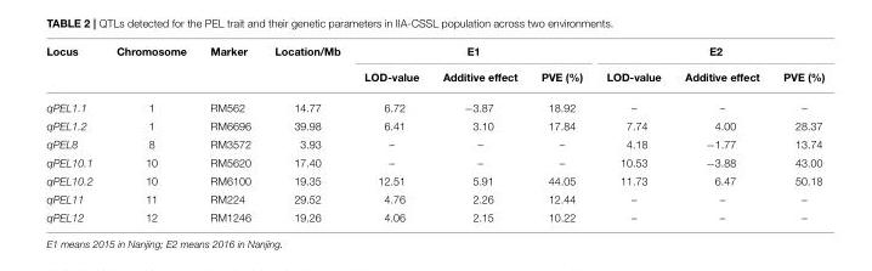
<table><thead><tr><td rowspan="2">Locus</td><td rowspan="2">Chromosome</td><td rowspan="2">Marker</td><td rowspan="2">Location/Mb</td><td colspan="3">E1</td><td colspan="3">E2</td></tr><tr><td>LOD-value</td><td>Additive effect</td><td>PVE (%)</td><td>LOD-value</td><td>Additive effect</td><td>PVE (%)</td></tr></thead><tbody><tr><td>qPEL1.1</td><td>1</td><td>RM562</td><td>14.77</td><td>6.72</td><td>−3.87</td><td>18.92</td><td>–</td><td>–</td><td>–</td></tr><tr><td>qPEL1.2</td><td>1</td><td>RM6696</td><td>39.98</td><td>6.41</td><td>3.10</td><td>17.84</td><td>7.74</td><td>4.00</td><td>28.37</td></tr><tr><td>qPEL8</td><td>8</td><td>RM3572</td><td>3.93</td><td>–</td><td>–</td><td>–</td><td>4.18</td><td>−1.77</td><td>13.74</td></tr><tr><td>qPEL10.1</td><td>10</td><td>RM5620</td><td>17.40</td><td>–</td><td>–</td><td>–</td><td>10.53</td><td>−3.88</td><td>43.00</td></tr><tr><td>qPEL10.2</td><td>10</td><td>RM6100</td><td>19.35</td><td>12.51</td><td>5.91</td><td>44.05</td><td>11.73</td><td>6.47</td><td>50.18</td></tr><tr><td>qPEL11</td><td>11</td><td>RM224</td><td>29.52</td><td>4.76</td><td>2.26</td><td>12.44</td><td>–</td><td>–</td><td>–</td></tr><tr><td>qPEL12</td><td>12</td><td>RM1246</td><td>19.26</td><td>4.06</td><td>2.15</td><td>10.22</td><td>–</td><td>–</td><td>–</td></tr></tbody></table>